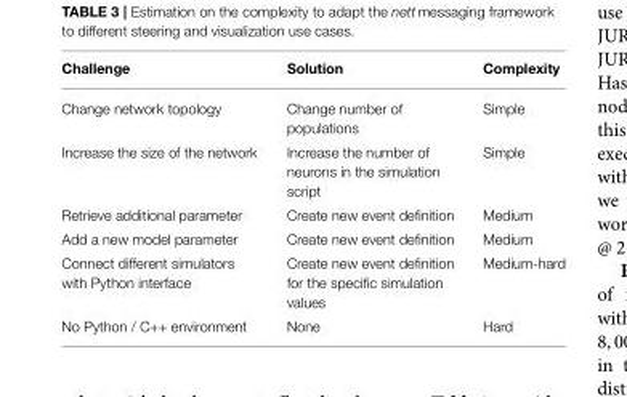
<table><thead><tr><td>Challenge</td><td>Solution</td><td>Complexity</td></tr></thead><tbody><tr><td>Change network topology</td><td>Change number of populations</td><td>Simple</td></tr><tr><td>Increase the size of the network</td><td>Increase the number of neurons in the simulation script</td><td>Simple</td></tr><tr><td>Retrieve additional parameter</td><td>Create new event definition</td><td>Medium</td></tr><tr><td>Add a new model parameter</td><td>Create new event definition</td><td>Medium</td></tr><tr><td>Connect different simulators with Python interface</td><td>Create new event definition for the specific simulation values</td><td>Medium-hard</td></tr><tr><td>No Python / C++ environment</td><td>None</td><td>Hard</td></tr></tbody></table>